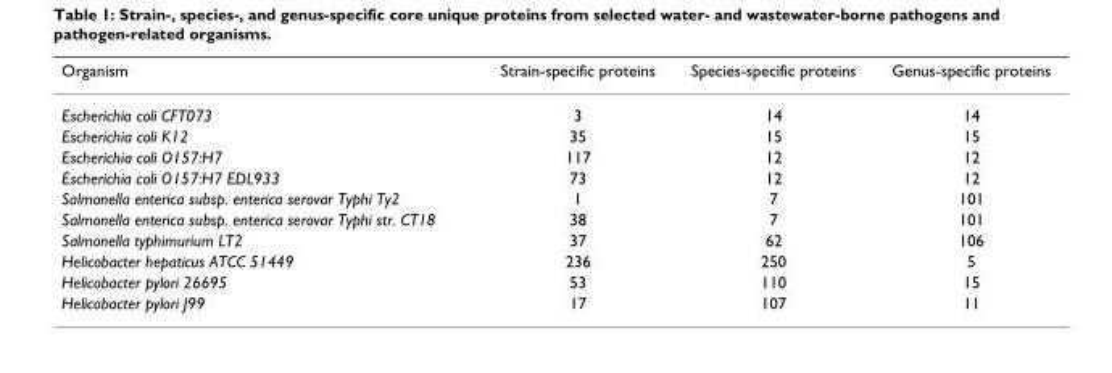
<table><thead><tr><td>Organism</td><td>Strain-specific proteins</td><td>Species-specific proteins</td><td>Genus-specific proteins</td></tr></thead><tbody><tr><td>Escherichia coli CFT073</td><td>3</td><td>14</td><td>14</td></tr><tr><td>Escherichia coli K12</td><td>35</td><td>15</td><td>15</td></tr><tr><td>Escherichia coli O157:H7</td><td>117</td><td>12</td><td>12</td></tr><tr><td>Escherichia coli O157:H7 EDL933</td><td>73</td><td>12</td><td>12</td></tr><tr><td>Salmonella enterica subsp. enterica serovar Typhi Ty2</td><td>1</td><td>7</td><td>101</td></tr><tr><td>Salmonella enterica subsp. enterica serovar Typhi str. CT18</td><td>38</td><td>7</td><td>101</td></tr><tr><td>Salmonella typhimurium LT2</td><td>37</td><td>62</td><td>106</td></tr><tr><td>Helicobacter hepaticus ATCC 51449</td><td>236</td><td>250</td><td>5</td></tr><tr><td>Helicobacter pylori 26695</td><td>53</td><td>110</td><td>15</td></tr><tr><td>Helicobacter pylori J99</td><td>17</td><td>107</td><td>11</td></tr></tbody></table>